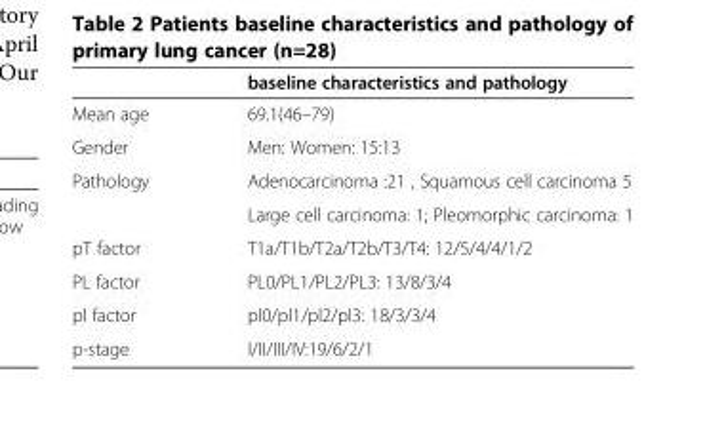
<table><thead><tr><td></td><td>baseline characteristics and pathology</td></tr></thead><tbody><tr><td>Mean age</td><td>69.1(46–79)</td></tr><tr><td>Gender</td><td>Men: Women: 15:13</td></tr><tr><td rowspan="2">Pathology</td><td>Adenocarcinoma :21 , Squamous cell carcinoma 5</td></tr><tr><td>Large cell carcinoma: 1; Pleomorphic carcinoma: 1</td></tr><tr><td>pT factor</td><td>T1a/T1b/T2a/T2b/T3/T4: 12/5/4/4/1/2</td></tr><tr><td>PL factor</td><td>PL0/PL1/PL2/PL3: 13/8/3/4</td></tr><tr><td>pl factor</td><td>pl0/pl1/pl2/pl3: 18/3/3/4</td></tr><tr><td>p-stage</td><td>I/II/III/IV:19/6/2/1</td></tr></tbody></table>